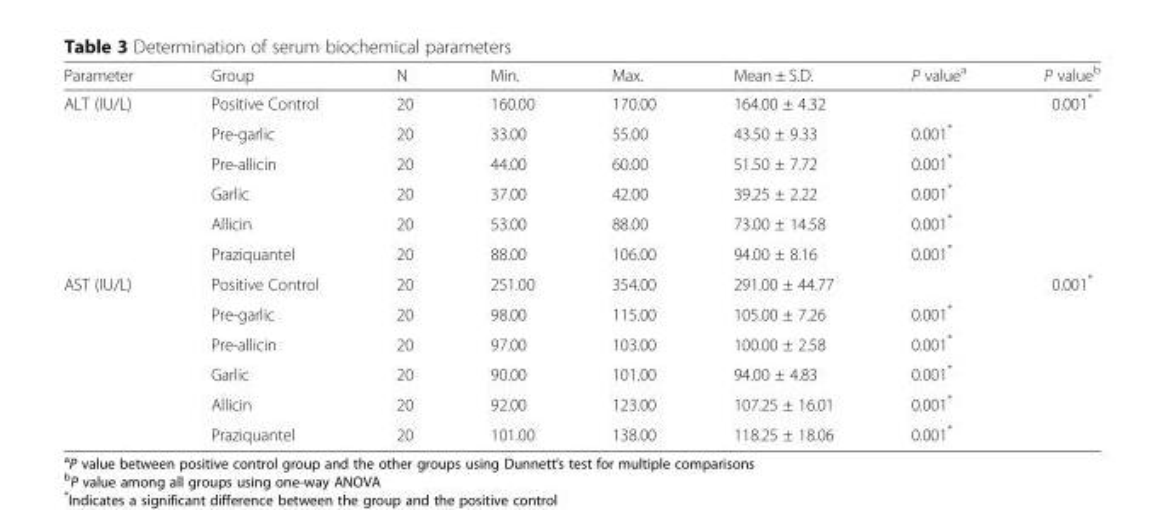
<table><thead><tr><td>Parameter</td><td>Group</td><td>N</td><td>Min.</td><td>Max.</td><td>Mean ± S.D.</td><td>P value<sup>a</sup></td><td>P value<sup>b</sup></td></tr></thead><tbody><tr><td rowspan="6">ALT (IU/L)</td><td>Positive Control</td><td>20</td><td>160.00</td><td>170.00</td><td>164.00 ± 4.32</td><td></td><td rowspan="6">0.001*</td></tr><tr><td>Pre-garlic</td><td>20</td><td>33.00</td><td>55.00</td><td>43.50 ± 9.33</td><td>0.001*</td></tr><tr><td>Pre-allicin</td><td>20</td><td>44.00</td><td>60.00</td><td>51.50 ± 7.72</td><td>0.001*</td></tr><tr><td>Garlic</td><td>20</td><td>37.00</td><td>42.00</td><td>39.25 ± 2.22</td><td>0.001*</td></tr><tr><td>Allicin</td><td>20</td><td>53.00</td><td>88.00</td><td>73.00 ± 14.58</td><td>0.001*</td></tr><tr><td>Praziquantel</td><td>20</td><td>88.00</td><td>106.00</td><td>94.00 ± 8.16</td><td>0.001*</td></tr><tr><td rowspan="6">AST (IU/L)</td><td>Positive Control</td><td>20</td><td>251.00</td><td>354.00</td><td>291.00 ± 44.77</td><td></td><td rowspan="6">0.001*</td></tr><tr><td>Pre-garlic</td><td>20</td><td>98.00</td><td>115.00</td><td>105.00 ± 7.26</td><td>0.001*</td></tr><tr><td>Pre-allicin</td><td>20</td><td>97.00</td><td>103.00</td><td>100.00 ± 2.58</td><td>0.001*</td></tr><tr><td>Garlic</td><td>20</td><td>90.00</td><td>101.00</td><td>94.00 ± 4.83</td><td>0.001*</td></tr><tr><td>Allicin</td><td>20</td><td>92.00</td><td>123.00</td><td>107.25 ± 16.01</td><td>0.001*</td></tr><tr><td>Praziquantel</td><td>20</td><td>101.00</td><td>138.00</td><td>118.25 ± 18.06</td><td>0.001*</td></tr></tbody></table>